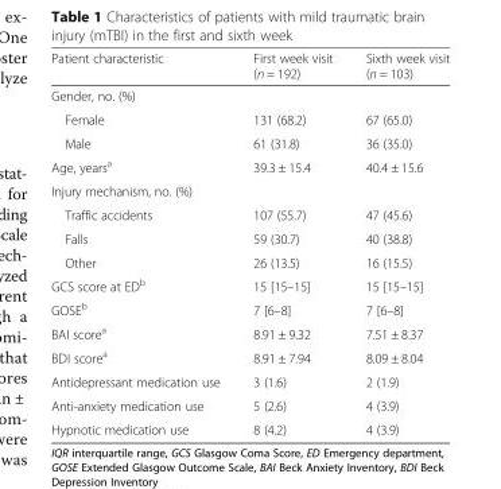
<table><thead><tr><td>Patient characteristic</td><td>First week visit (n = 192)</td><td>Sixth week visit (n = 103)</td></tr></thead><tbody><tr><td colspan="3">Gender, no. (%)</td></tr><tr><td>Female</td><td>131 (68.2)</td><td>67 (65.0)</td></tr><tr><td>Male</td><td>61 (31.8)</td><td>36 (35.0)</td></tr><tr><td>Age, years<sup>a</sup></td><td>39.3 ± 15.4</td><td>40.4 ± 15.6</td></tr><tr><td colspan="3">Injury mechanism, no. (%)</td></tr><tr><td>Traffic accidents</td><td>107 (55.7)</td><td>47 (45.6)</td></tr><tr><td>Falls</td><td>59 (30.7)</td><td>40 (38.8)</td></tr><tr><td>Other</td><td>26 (13.5)</td><td>16 (15.5)</td></tr><tr><td>GCS score at ED<sup>b</sup></td><td>15 [15–15]</td><td>15 [15–15]</td></tr><tr><td>GOSE<sup>b</sup></td><td>7 [6–8]</td><td>7 [6–8]</td></tr><tr><td>BAI score<sup>a</sup></td><td>8.91 ± 9.32</td><td>7.51 ± 8.37</td></tr><tr><td>BDI score<sup>a</sup></td><td>8.91 ± 7.94</td><td>8.09 ± 8.04</td></tr><tr><td>Antidepressant medication use</td><td>3 (1.6)</td><td>2 (1.9)</td></tr><tr><td>Anti-anxiety medication use</td><td>5 (2.6)</td><td>4 (3.9)</td></tr><tr><td>Hypnotic medication use</td><td>8 (4.2)</td><td>4 (3.9)</td></tr></tbody></table>